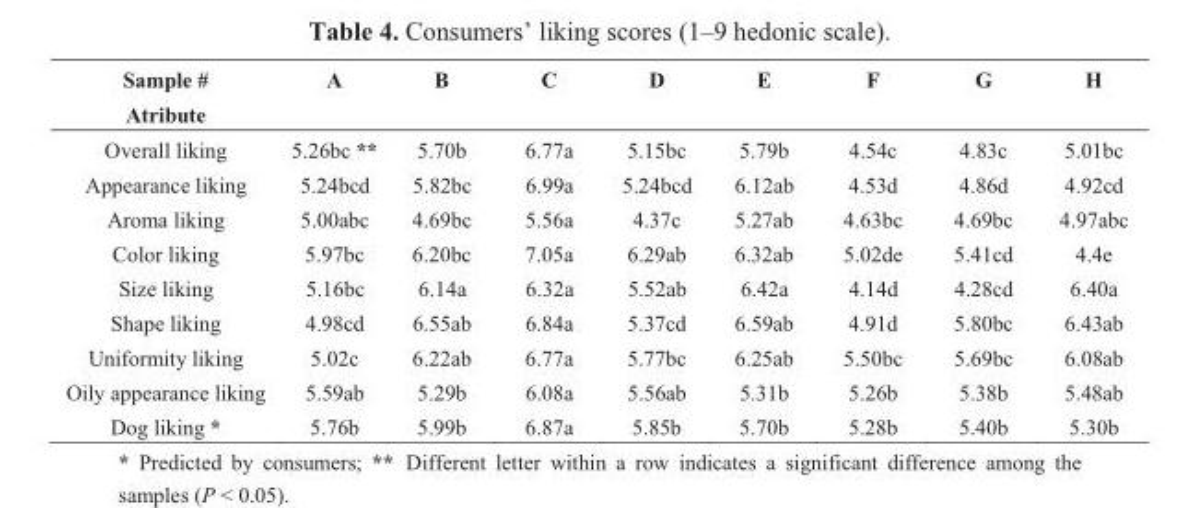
<table><thead><tr><td rowspan="2">Sample # Atribute</td><td rowspan="2">A</td><td rowspan="2">B</td><td rowspan="2">C</td><td rowspan="2">D</td><td rowspan="2">E</td><td rowspan="2">F</td><td rowspan="2">G</td><td rowspan="2">H</td></tr><tr></tr></thead><tbody><tr><td>Overall liking</td><td>5.26bc **</td><td>5.70b</td><td>6.77a</td><td>5.15bc</td><td>5.79b</td><td>4.54c</td><td>4.83c</td><td>5.01bc</td></tr><tr><td>Appearance liking</td><td>5.24bcd</td><td>5.82bc</td><td>6.99a</td><td>5.24bcd</td><td>6.12ab</td><td>4.53d</td><td>4.86d</td><td>4.92cd</td></tr><tr><td>Aroma liking</td><td>5.00abc</td><td>4.69bc</td><td>5.56a</td><td>4.37c</td><td>5.27ab</td><td>4.63bc</td><td>4.69bc</td><td>4.97abc</td></tr><tr><td>Color liking</td><td>5.97bc</td><td>6.20bc</td><td>7.05a</td><td>6.29ab</td><td>6.32ab</td><td>5.02de</td><td>5.41cd</td><td>4.4e</td></tr><tr><td>Size liking</td><td>5.16bc</td><td>6.14a</td><td>6.32a</td><td>5.52ab</td><td>6.42a</td><td>4.14d</td><td>4.28cd</td><td>6.40a</td></tr><tr><td>Shape liking</td><td>4.98cd</td><td>6.55ab</td><td>6.84a</td><td>5.37cd</td><td>6.59ab</td><td>4.91d</td><td>5.80bc</td><td>6.43ab</td></tr><tr><td>Uniformity liking</td><td>5.02c</td><td>6.22ab</td><td>6.77a</td><td>5.77bc</td><td>6.25ab</td><td>5.50bc</td><td>5.69bc</td><td>6.08ab</td></tr><tr><td>Oily appearance liking</td><td>5.59ab</td><td>5.29b</td><td>6.08a</td><td>5.56ab</td><td>5.31b</td><td>5.26b</td><td>5.38b</td><td>5.48ab</td></tr><tr><td>Dog liking *</td><td>5.76b</td><td>5.99b</td><td>6.87a</td><td>5.85b</td><td>5.70b</td><td>5.28b</td><td>5.40b</td><td>5.30b</td></tr></tbody></table>